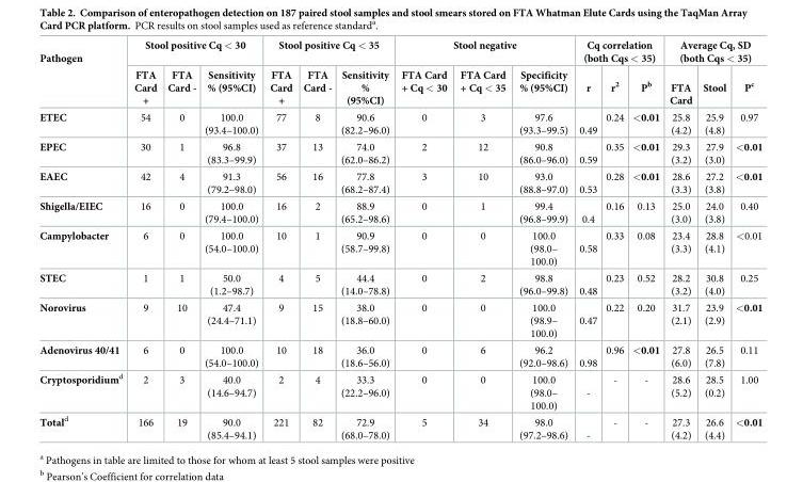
<table><thead><tr><td rowspan="2">Pathogen</td><td colspan="3">Stool positive Cq &lt; 30</td><td colspan="3">Stool positive Cq &lt; 35</td><td colspan="3">Stool negative</td><td colspan="3">Cq correlation (both Cqs &lt; 35)</td><td colspan="3">Average Cq, SD (both Cqs &lt; 35)</td></tr><tr><td>FTA Card +</td><td>FTA Card -</td><td>Sensitivity % (95%CI)</td><td>FTA Card +</td><td>FTA Card -</td><td>Sensitivity % (95%CI)</td><td>FTA Card + Cq &lt; 30</td><td>FTA Card + Cq &lt; 35</td><td>Specificity % (95%CI)</td><td>r</td><td>r<sup>2</sup></td><td>P<sup>b</sup></td><td>FTA Card</td><td>Stool</td><td>P<sup>c</sup></td></tr></thead><tbody><tr><td>ETEC</td><td>54</td><td>0</td><td>100.0 (93.4–100.0)</td><td>77</td><td>8</td><td>90.6 (82.2–96.0)</td><td>0</td><td>3</td><td>97.6 (93.3–99.5)</td><td>0.49</td><td>0.24</td><td>&lt;0.01</td><td>25.8 (4.2)</td><td>25.9 (4.8)</td><td>0.97</td></tr><tr><td>EPEC</td><td>30</td><td>1</td><td>96.8 (83.3–99.9)</td><td>37</td><td>13</td><td>74.0 (62.0–86.2)</td><td>2</td><td>12</td><td>90.8 (86.0–96.0)</td><td>0.59</td><td>0.35</td><td>&lt;0.01</td><td>29.3 (3.2)</td><td>27.9 (3.0)</td><td>&lt;0.01</td></tr><tr><td>EAEC</td><td>42</td><td>4</td><td>91.3 (79.2–98.0)</td><td>56</td><td>16</td><td>77.8 (68.2–87.4)</td><td>3</td><td>10</td><td>93.0 (88.8–97.0)</td><td>0.53</td><td>0.28</td><td>&lt;0.01</td><td>28.6 (3.3)</td><td>27.2 (3.8)</td><td>&lt;0.01</td></tr><tr><td>Shigella/EIEC</td><td>16</td><td>0</td><td>100.0 (79.4–100.0)</td><td>16</td><td>2</td><td>88.9 (65.2–98.6)</td><td>0</td><td>1</td><td>99.4 (96.8–99.9)</td><td>0.4</td><td>0.16</td><td>0.13</td><td>25.0 (3.0)</td><td>24.0 (3.8)</td><td>0.40</td></tr><tr><td>Campylobacter</td><td>6</td><td>0</td><td>100.0 (54.0–100.0)</td><td>10</td><td>1</td><td>90.9 (58.7–99.8)</td><td>0</td><td>0</td><td>100.0 (98.0– 100.0)</td><td>0.58</td><td>0.33</td><td>0.08</td><td>23.4 (3.3)</td><td>28.8 (4.1)</td><td>&lt;0.01</td></tr><tr><td>STEC</td><td>1</td><td>1</td><td>50.0 (1.2–98.7)</td><td>4</td><td>5</td><td>44.4 (14.0–78.8)</td><td>0</td><td>2</td><td>98.8 (96.0–99.8)</td><td>0.48</td><td>0.23</td><td>0.52</td><td>28.2 (3.2)</td><td>30.8 (4.0)</td><td>0.25</td></tr><tr><td>Norovirus</td><td>9</td><td>10</td><td>47.4 (24.4–71.1)</td><td>9</td><td>15</td><td>38.0 (18.8–60.0)</td><td>0</td><td>0</td><td>100.0 (98.9– 100.0)</td><td>0.47</td><td>0.22</td><td>0.20</td><td>31.7 (2.1)</td><td>23.9 (2.9)</td><td>&lt;0.01</td></tr><tr><td>Adenovirus 40/41</td><td>6</td><td>0</td><td>100.0 (54.0–100.0)</td><td>10</td><td>18</td><td>36.0 (18.6–56.0)</td><td>0</td><td>6</td><td>96.2 (92.0–98.6)</td><td>0.98</td><td>0.96</td><td>&lt;0.01</td><td>27.8 (6.0)</td><td>26.5 (7.8)</td><td>0.11</td></tr><tr><td>Cryptosporidium<sup>d</sup></td><td>2</td><td>3</td><td>40.0 (14.6–94.7)</td><td>2</td><td>4</td><td>33.3 (22.2–96.0)</td><td>0</td><td>0</td><td>100.0 (98.0– 100.0)</td><td>-</td><td>-</td><td>-</td><td>28.6 (5.2)</td><td>28.5 (0.2)</td><td>1.00</td></tr><tr><td>Total<sup>d</sup></td><td>166</td><td>19</td><td>90.0 (85.4–94.1)</td><td>221</td><td>82</td><td>72.9 (68.0–78.0)</td><td>5</td><td>34</td><td>98.0 (97.2–98.6)</td><td>-</td><td>-</td><td>-</td><td>27.3 (4.2)</td><td>26.6 (4.4)</td><td>&lt;0.01</td></tr></tbody></table>